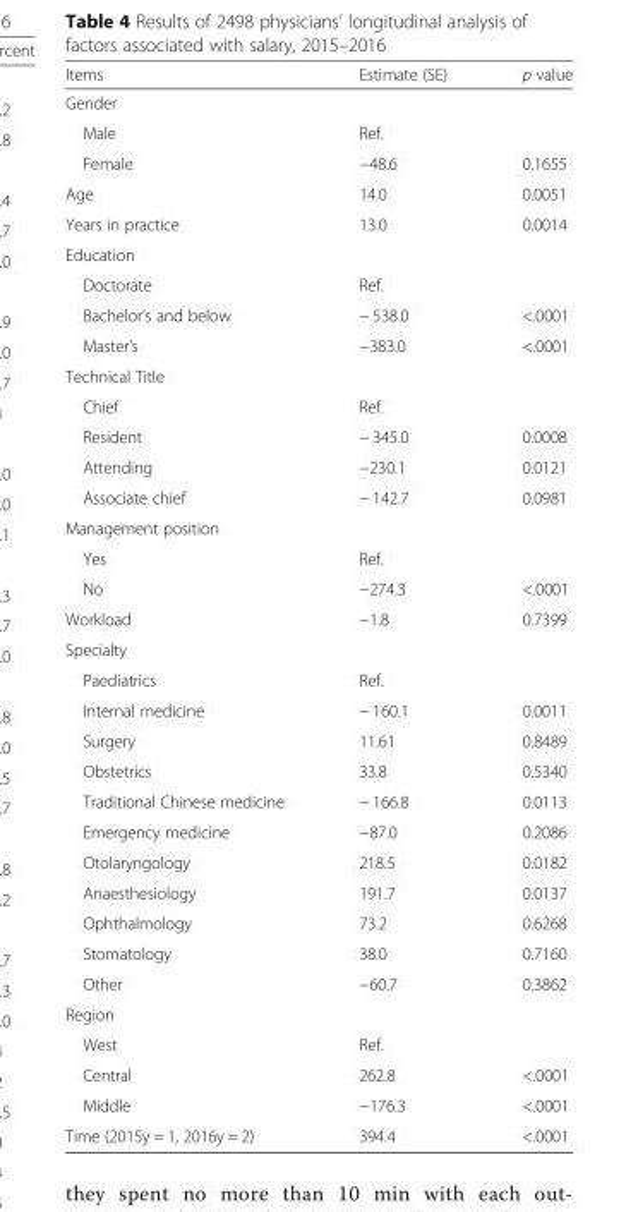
<table><thead><tr><td>Items</td><td>Estimate (SE)</td><td>p value</td></tr></thead><tbody><tr><td colspan="3">Gender</td></tr><tr><td>Male</td><td>Ref.</td><td></td></tr><tr><td>Female</td><td>−48.6</td><td>0.1655</td></tr><tr><td>Age</td><td>14.0</td><td>0.0051</td></tr><tr><td>Years in practice</td><td>13.0</td><td>0.0014</td></tr><tr><td colspan="3">Education</td></tr><tr><td>Doctorate</td><td>Ref.</td><td></td></tr><tr><td>Bachelor’s and below</td><td>− 538.0</td><td>&lt;.0001</td></tr><tr><td>Master’s</td><td>−383.0</td><td>&lt;.0001</td></tr><tr><td colspan="3">Technical Title</td></tr><tr><td>Chief</td><td>Ref.</td><td></td></tr><tr><td>Resident</td><td>− 345.0</td><td>0.0008</td></tr><tr><td>Attending</td><td>−230.1</td><td>0.0121</td></tr><tr><td>Associate chief</td><td>− 142.7</td><td>0.0981</td></tr><tr><td colspan="3">Management position</td></tr><tr><td>Yes</td><td>Ref.</td><td></td></tr><tr><td>No</td><td>−274.3</td><td>&lt;.0001</td></tr><tr><td>Workload</td><td>−1.8</td><td>0.7399</td></tr><tr><td colspan="3">Specialty</td></tr><tr><td>Paediatrics</td><td>Ref.</td><td></td></tr><tr><td>Internal medicine</td><td>− 160.1</td><td>0.0011</td></tr><tr><td>Surgery</td><td>11.61</td><td>0.8489</td></tr><tr><td>Obstetrics</td><td>33.8</td><td>0.5340</td></tr><tr><td>Traditional Chinese medicine</td><td>− 166.8</td><td>0.0113</td></tr><tr><td>Emergency medicine</td><td>−87.0</td><td>0.2086</td></tr><tr><td>Otolaryngology</td><td>218.5</td><td>0.0182</td></tr><tr><td>Anaesthesiology</td><td>191.7</td><td>0.0137</td></tr><tr><td>Ophthalmology</td><td>73.2</td><td>0.6268</td></tr><tr><td>Stomatology</td><td>38.0</td><td>0.7160</td></tr><tr><td>Other</td><td>−60.7</td><td>0.3862</td></tr><tr><td colspan="3">Region</td></tr><tr><td>West</td><td>Ref.</td><td></td></tr><tr><td>Central</td><td>262.8</td><td>&lt;.0001</td></tr><tr><td>Middle</td><td>−176.3</td><td>&lt;.0001</td></tr><tr><td>Time (2015y = 1, 2016y = 2)</td><td>394.4</td><td>&lt;.0001</td></tr></tbody></table>